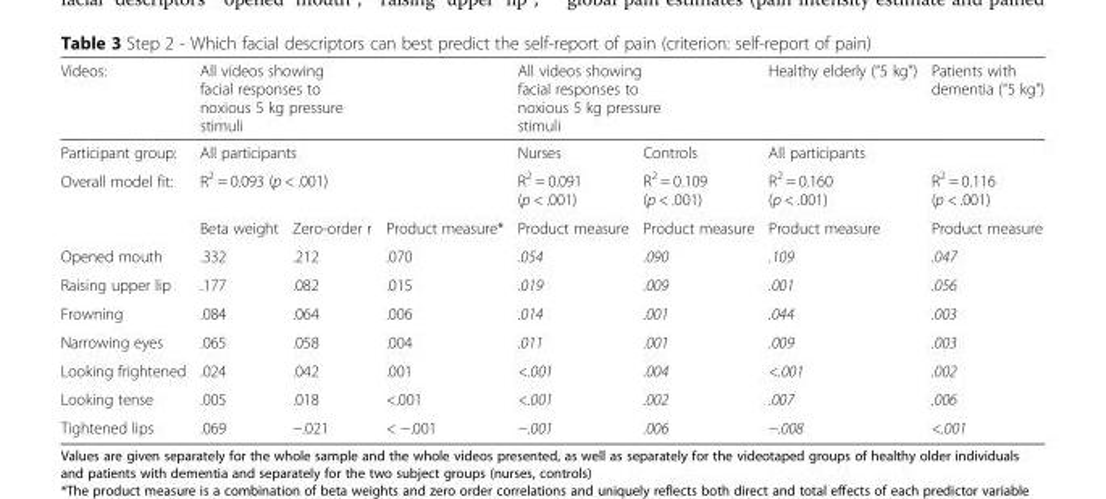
<table><thead><tr><td rowspan="4">Videos: Participant group: Overall model fit:</td><td rowspan="3" colspan="3">All videos showing facial responses to noxious 5 kg pressure stimuli All participants R<sup>2</sup> = 0.093 (p &lt; .001)</td><td colspan="2">All videos showing facial responses to noxious 5 kg pressure stimuli</td><td>Healthy elderly (“5 kg”)</td><td>Patients with dementia (“5 kg”)</td></tr><tr><td rowspan="3">Nurses R2 = 0.091 (p &lt; .001) Product measure</td><td rowspan="3">Controls R2 = 0.109 (p &lt; .001) Product measure</td><td colspan="2">All participants</td></tr><tr><td rowspan="2">R2 = 0.160 (p &lt; .001) Product measure</td><td rowspan="2">R2 = 0.116 (p &lt; .001) Product measure</td></tr><tr><td>Beta weight</td><td>Zero-order r</td><td>Product measure*</td></tr></thead><tbody><tr><td>Opened mouth</td><td>.332</td><td>.212</td><td>.070</td><td>.054</td><td>.090</td><td>.109</td><td>.047</td></tr><tr><td>Raising upper lip</td><td>.177</td><td>.082</td><td>.015</td><td>.019</td><td>.009</td><td>.001</td><td>.056</td></tr><tr><td>Frowning</td><td>.084</td><td>.064</td><td>.006</td><td>.014</td><td>.001</td><td>.044</td><td>.003</td></tr><tr><td>Narrowing eyes</td><td>.065</td><td>.058</td><td>.004</td><td>.011</td><td>.001</td><td>.009</td><td>.003</td></tr><tr><td>Looking frightened</td><td>.024</td><td>.042</td><td>.001</td><td>&lt;.001</td><td>.004</td><td>&lt;.001</td><td>.002</td></tr><tr><td>Looking tense</td><td>.005</td><td>.018</td><td>&lt;.001</td><td>&lt;.001</td><td>.002</td><td>.007</td><td>.006</td></tr><tr><td>Tightened lips</td><td>.069</td><td>−.021</td><td>&lt; −.001</td><td>−.001</td><td>.006</td><td>−.008</td><td>&lt;.001</td></tr></tbody></table>